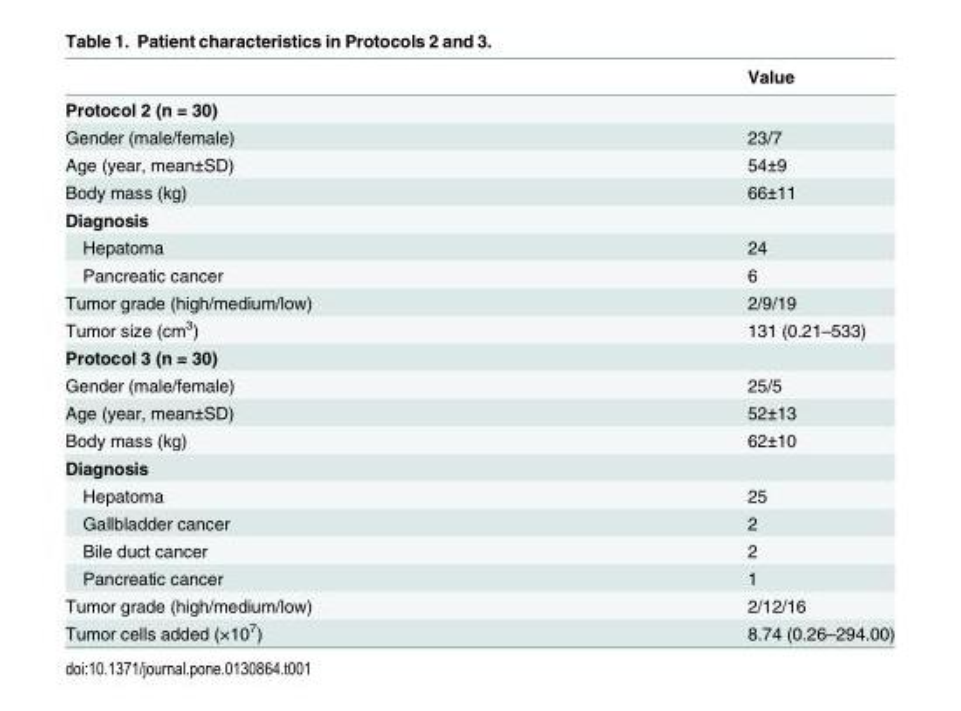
<table><thead><tr><td></td><td>Value</td></tr></thead><tbody><tr><td colspan="2">Protocol 2 (n = 30)</td></tr><tr><td>Gender (male/female)</td><td>23/7</td></tr><tr><td>Age (year, mean±SD)</td><td>54±9</td></tr><tr><td>Body mass (kg)</td><td>66±11</td></tr><tr><td colspan="2">Diagnosis</td></tr><tr><td>Hepatoma</td><td>24</td></tr><tr><td>Pancreatic cancer</td><td>6</td></tr><tr><td>Tumor grade (high/medium/low)</td><td>2/9/19</td></tr><tr><td>Tumor size (cm<sup>3</sup>)</td><td>131 (0.21–533)</td></tr><tr><td colspan="2">Protocol 3 (n = 30)</td></tr><tr><td>Gender (male/female)</td><td>25/5</td></tr><tr><td>Age (year, mean±SD)</td><td>52±13</td></tr><tr><td>Body mass (kg)</td><td>62±10</td></tr><tr><td colspan="2">Diagnosis</td></tr><tr><td>Hepatoma</td><td>25</td></tr><tr><td>Gallbladder cancer</td><td>2</td></tr><tr><td>Bile duct cancer</td><td>2</td></tr><tr><td>Pancreatic cancer</td><td>1</td></tr><tr><td>Tumor grade (high/medium/low)</td><td>2/12/16</td></tr><tr><td>Tumor cells added (×10<sup>7</sup>)</td><td>8.74 (0.26–294.00)</td></tr></tbody></table>